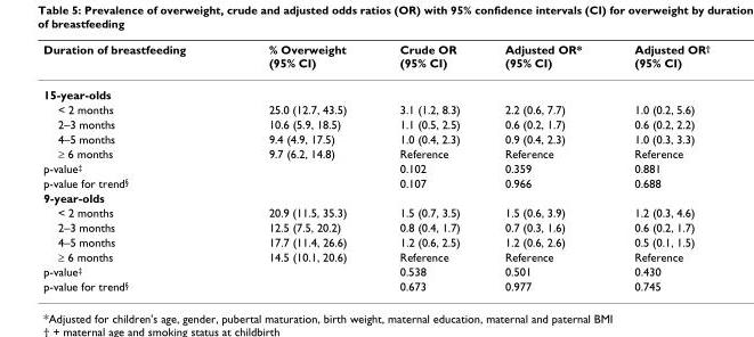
<table><thead><tr><td>Duration of breastfeeding</td><td>% Overweight (95% CI)</td><td>Crude OR (95% CI)</td><td>Adjusted OR* (95% CI)</td><td>Adjusted OR<sup>†</sup> (95% CI)</td></tr></thead><tbody><tr><td colspan="5">15-year-olds</td></tr><tr><td>&lt; 2 months</td><td>25.0 (12.7, 43.5)</td><td>3.1 (1.2, 8.3)</td><td>2.2 (0.6, 7.7)</td><td>1.0 (0.2, 5.6)</td></tr><tr><td>2–3 months</td><td>10.6 (5.9, 18.5)</td><td>1.1 (0.5, 2.5)</td><td>0.6 (0.2, 1.7)</td><td>0.6 (0.2, 2.2)</td></tr><tr><td>4–5 months</td><td>9.4 (4.9, 17.5)</td><td>1.0 (0.4, 2.3)</td><td>0.9 (0.4, 2.3)</td><td>1.0 (0.3, 3.3)</td></tr><tr><td>≥ 6 months</td><td>9.7 (6.2, 14.8)</td><td>Reference</td><td>Reference</td><td>Reference</td></tr><tr><td>p-value<sup>‡</sup></td><td></td><td>0.102</td><td>0.359</td><td>0.881</td></tr><tr><td>p-value for trend<sup>§</sup></td><td></td><td>0.107</td><td>0.966</td><td>0.688</td></tr><tr><td colspan="5">9-year-olds</td></tr><tr><td>&lt; 2 months</td><td>20.9 (11.5, 35.3)</td><td>1.5 (0.7, 3.5)</td><td>1.5 (0.6, 3.9)</td><td>1.2 (0.3, 4.6)</td></tr><tr><td>2–3 months</td><td>12.5 (7.5, 20.2)</td><td>0.8 (0.4, 1.7)</td><td>0.7 (0.3, 1.6)</td><td>0.6 (0.2, 1.7)</td></tr><tr><td>4–5 months</td><td>17.7 (11.4, 26.6)</td><td>1.2 (0.6, 2.5)</td><td>1.2 (0.6, 2.6)</td><td>0.5 (0.1, 1.5)</td></tr><tr><td>≥ 6 months</td><td>14.5 (10.1, 20.6)</td><td>Reference</td><td>Reference</td><td>Reference</td></tr><tr><td>p-value<sup>‡</sup></td><td></td><td>0.538</td><td>0.501</td><td>0.430</td></tr><tr><td>p-value for trend<sup>§</sup></td><td></td><td>0.673</td><td>0.977</td><td>0.745</td></tr></tbody></table>